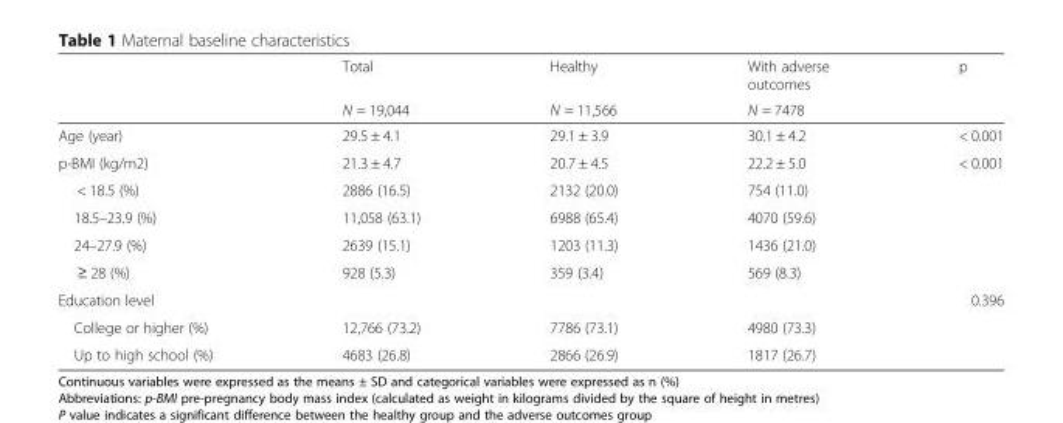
<table><thead><tr><td rowspan="2"></td><td rowspan="2">Total N = 19,044</td><td rowspan="2">Healthy N = 11,566</td><td rowspan="2">With adverse outcomes N = 7478</td><td rowspan="2">p</td></tr><tr></tr></thead><tbody><tr><td>Age (year)</td><td>29.5 ± 4.1</td><td>29.1 ± 3.9</td><td>30.1 ± 4.2</td><td>&lt; 0.001</td></tr><tr><td>p-BMI (kg/m2)</td><td>21.3 ± 4.7</td><td>20.7 ± 4.5</td><td>22.2 ± 5.0</td><td>&lt; 0.001</td></tr><tr><td>&lt; 18.5 (%)</td><td>2886 (16.5)</td><td>2132 (20.0)</td><td>754 (11.0)</td><td></td></tr><tr><td>18.5–23.9 (%)</td><td>11,058 (63.1)</td><td>6988 (65.4)</td><td>4070 (59.6)</td><td></td></tr><tr><td>24–27.9 (%)</td><td>2639 (15.1)</td><td>1203 (11.3)</td><td>1436 (21.0)</td><td></td></tr><tr><td>≥ 28 (%)</td><td>928 (5.3)</td><td>359 (3.4)</td><td>569 (8.3)</td><td></td></tr><tr><td>Education level</td><td></td><td></td><td></td><td>0.396</td></tr><tr><td>College or higher (%)</td><td>12,766 (73.2)</td><td>7786 (73.1)</td><td>4980 (73.3)</td><td></td></tr><tr><td>Up to high school (%)</td><td>4683 (26.8)</td><td>2866 (26.9)</td><td>1817 (26.7)</td><td></td></tr></tbody></table>